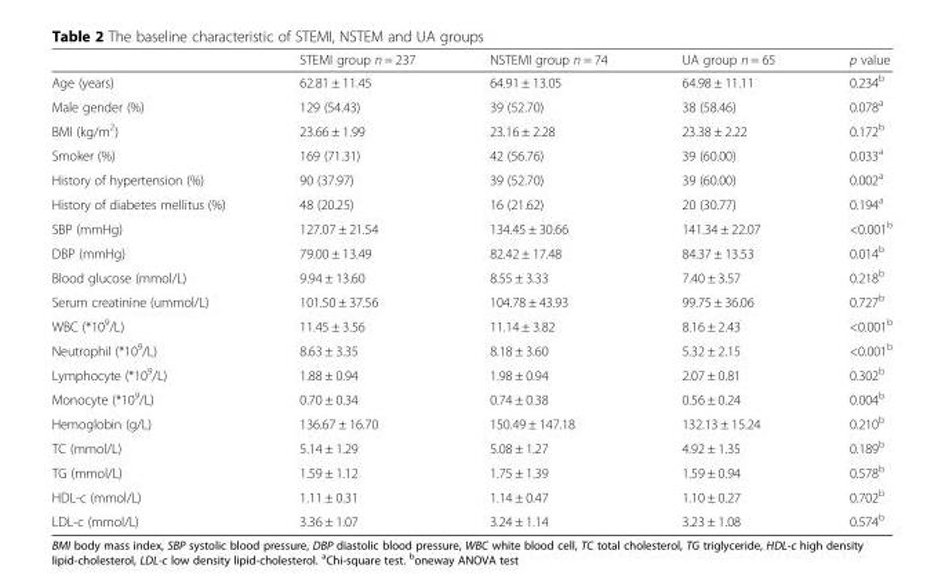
<table><thead><tr><td></td><td>STEMI group n = 237</td><td>NSTEMI group n = 74</td><td>UA group n = 65</td><td>p value</td></tr></thead><tbody><tr><td>Age (years)</td><td>62.81 ± 11.45</td><td>64.91 ± 13.05</td><td>64.98 ± 11.11</td><td>0.234<sup>b</sup></td></tr><tr><td>Male gender (%)</td><td>129 (54.43)</td><td>39 (52.70)</td><td>38 (58.46)</td><td>0.078<sup>a</sup></td></tr><tr><td>BMI (kg/m<sup>2</sup>)</td><td>23.66 ± 1.99</td><td>23.16 ± 2.28</td><td>23.38 ± 2.22</td><td>0.172<sup>b</sup></td></tr><tr><td>Smoker (%)</td><td>169 (71.31)</td><td>42 (56.76)</td><td>39 (60.00)</td><td>0.033<sup>a</sup></td></tr><tr><td>History of hypertension (%)</td><td>90 (37.97)</td><td>39 (52.70)</td><td>39 (60.00)</td><td>0.002<sup>a</sup></td></tr><tr><td>History of diabetes mellitus (%)</td><td>48 (20.25)</td><td>16 (21.62)</td><td>20 (30.77)</td><td>0.194<sup>a</sup></td></tr><tr><td>SBP (mmHg)</td><td>127.07 ± 21.54</td><td>134.45 ± 30.66</td><td>141.34 ± 22.07</td><td>&lt;0.001<sup>b</sup></td></tr><tr><td>DBP (mmHg)</td><td>79.00 ± 13.49</td><td>82.42 ± 17.48</td><td>84.37 ± 13.53</td><td>0.014<sup>b</sup></td></tr><tr><td>Blood glucose (mmol/L)</td><td>9.94 ± 13.60</td><td>8.55 ± 3.33</td><td>7.40 ± 3.57</td><td>0.218<sup>b</sup></td></tr><tr><td>Serum creatinine (ummol/L)</td><td>101.50 ± 37.56</td><td>104.78 ± 43.93</td><td>99.75 ± 36.06</td><td>0.727<sup>b</sup></td></tr><tr><td>WBC (*10<sup>9</sup>/L)</td><td>11.45 ± 3.56</td><td>11.14 ± 3.82</td><td>8.16 ± 2.43</td><td>&lt;0.001<sup>b</sup></td></tr><tr><td>Neutrophil (*10<sup>9</sup>/L)</td><td>8.63 ± 3.35</td><td>8.18 ± 3.60</td><td>5.32 ± 2.15</td><td>&lt;0.001<sup>b</sup></td></tr><tr><td>Lymphocyte (*10<sup>9</sup>/L)</td><td>1.88 ± 0.94</td><td>1.98 ± 0.94</td><td>2.07 ± 0.81</td><td>0.302<sup>b</sup></td></tr><tr><td>Monocyte (*10<sup>9</sup>/L)</td><td>0.70 ± 0.34</td><td>0.74 ± 0.38</td><td>0.56 ± 0.24</td><td>0.004<sup>b</sup></td></tr><tr><td>Hemoglobin (g/L)</td><td>136.67 ± 16.70</td><td>150.49 ± 147.18</td><td>132.13 ± 15.24</td><td>0.210<sup>b</sup></td></tr><tr><td>TC (mmol/L)</td><td>5.14 ± 1.29</td><td>5.08 ± 1.27</td><td>4.92 ± 1.35</td><td>0.189<sup>b</sup></td></tr><tr><td>TG (mmol/L)</td><td>1.59 ± 1.12</td><td>1.75 ± 1.39</td><td>1.59 ± 0.94</td><td>0.578<sup>b</sup></td></tr><tr><td>HDL-c (mmol/L)</td><td>1.11 ± 0.31</td><td>1.14 ± 0.47</td><td>1.10 ± 0.27</td><td>0.702<sup>b</sup></td></tr><tr><td>LDL-c (mmol/L)</td><td>3.36 ± 1.07</td><td>3.24 ± 1.14</td><td>3.23 ± 1.08</td><td>0.574<sup>b</sup></td></tr></tbody></table>